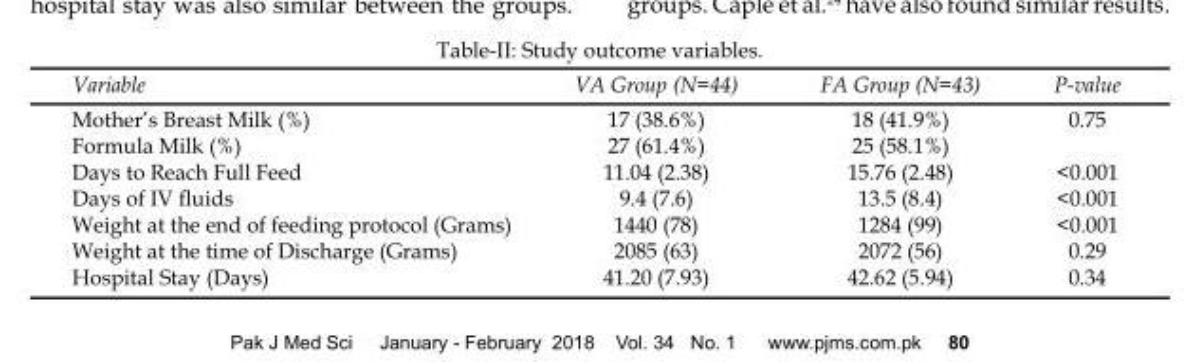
<table><thead><tr><td>Variable</td><td>VA Group (N=44)</td><td>FA Group (N=43)</td><td>P-value</td></tr></thead><tbody><tr><td>Mother’s Breast Milk (%)</td><td>17 (38.6%)</td><td>18 (41.9%)</td><td>0.75</td></tr><tr><td>Formula Milk (%)</td><td>27 (61.4%)</td><td>25 (58.1%)</td><td></td></tr><tr><td>Days to Reach Full Feed</td><td>11.04 (2.38)</td><td>15.76 (2.48)</td><td>&lt;0.001</td></tr><tr><td>Days of IV fluids</td><td>9.4 (7.6)</td><td>13.5 (8.4)</td><td>&lt;0.001</td></tr><tr><td>Weight at the end of feeding protocol (Grams)</td><td>1440 (78)</td><td>1284 (99)</td><td>&lt;0.001</td></tr><tr><td>Weight at the time of Discharge (Grams)</td><td>2085 (63)</td><td>2072 (56)</td><td>0.29</td></tr><tr><td>Hospital Stay (Days)</td><td>41.20 (7.93)</td><td>42.62 (5.94)</td><td>0.34</td></tr></tbody></table>